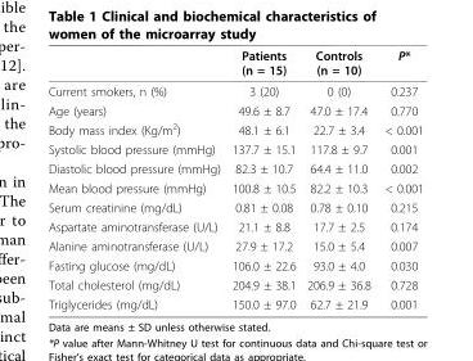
<table><thead><tr><td></td><td>Patients (n = 15)</td><td>Controls (n = 10)</td><td>P*</td></tr></thead><tbody><tr><td>Current smokers, n (%)</td><td>3 (20)</td><td>0 (0)</td><td>0.237</td></tr><tr><td>Age (years)</td><td>49.6 ± 8.7</td><td>47.0 ± 17.4</td><td>0.770</td></tr><tr><td>Body mass index (Kg/m<sup>2</sup>)</td><td>48.1 ± 6.1</td><td>22.7 ± 3.4</td><td>&lt; 0.001</td></tr><tr><td>Systolic blood pressure (mmHg)</td><td>137.7 ± 15.1</td><td>117.8 ± 9.7</td><td>0.001</td></tr><tr><td>Diastolic blood pressure (mmHg)</td><td>82.3 ± 10.7</td><td>64.4 ± 11.0</td><td>0.002</td></tr><tr><td>Mean blood pressure (mmHg)</td><td>100.8 ± 10.5</td><td>82.2 ± 10.3</td><td>&lt; 0.001</td></tr><tr><td>Serum creatinine (mg/dL)</td><td>0.81 ± 0.08</td><td>0.78 ± 0.10</td><td>0.215</td></tr><tr><td>Aspartate aminotransferase (U/L)</td><td>21.1 ± 8.8</td><td>17.7 ± 2.5</td><td>0.174</td></tr><tr><td>Alanine aminotransferase (U/L)</td><td>27.9 ± 17.2</td><td>15.0 ± 5.4</td><td>0.007</td></tr><tr><td>Fasting glucose (mg/dL)</td><td>106.0 ± 22.6</td><td>93.0 ± 4.0</td><td>0.030</td></tr><tr><td>Total cholesterol (mg/dL)</td><td>204.9 ± 38.1</td><td>206.9 ± 36.8</td><td>0.728</td></tr><tr><td>Triglycerides (mg/dL)</td><td>150.0 ± 97.0</td><td>62.7 ± 21.9</td><td>0.001</td></tr></tbody></table>